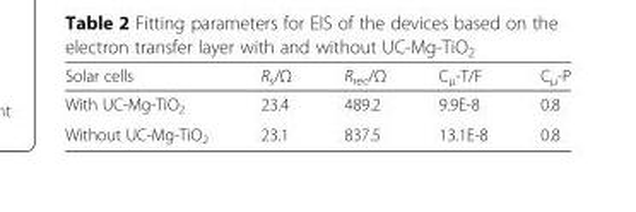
<table><thead><tr><td>Solar cells</td><td>R<sub>s</sub>/Ω</td><td>R<sub>rec</sub>/Ω</td><td>C<sub>μ</sub>-T/F</td><td>C<sub>μ</sub>-P</td></tr></thead><tbody><tr><td>With UC-Mg-TiO<sub>2</sub></td><td>23.4</td><td>489.2</td><td>9.9E-8</td><td>0.8</td></tr><tr><td>Without UC-Mg-TiO<sub>2</sub></td><td>23.1</td><td>837.5</td><td>13.1E-8</td><td>0.8</td></tr></tbody></table>